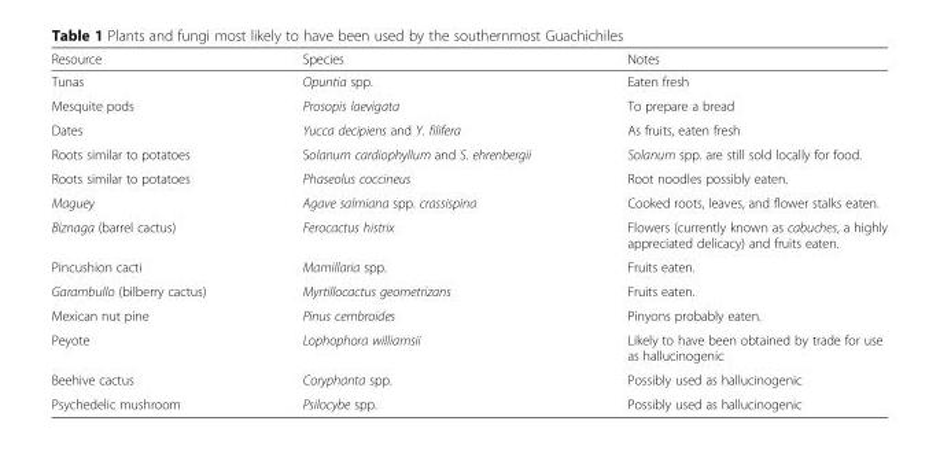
<table><thead><tr><td>Resource</td><td>Species</td><td>Notes</td></tr></thead><tbody><tr><td>Tunas</td><td>Opuntia spp.</td><td>Eaten fresh</td></tr><tr><td>Mesquite pods</td><td>Prosopis laevigata</td><td>To prepare a bread</td></tr><tr><td>Dates</td><td>Yucca decipiens and Y. filifera</td><td>As fruits, eaten fresh</td></tr><tr><td>Roots similar to potatoes</td><td>Solanum cardiophyllum and S. ehrenbergii</td><td>Solanum spp. are still sold locally for food.</td></tr><tr><td>Roots similar to potatoes</td><td>Phaseolus coccineus</td><td>Root noodles possibly eaten.</td></tr><tr><td>Maguey</td><td>Agave salmiana spp. crassispina</td><td>Cooked roots, leaves, and flower stalks eaten.</td></tr><tr><td>Biznaga (barrel cactus)</td><td>Ferocactus histrix</td><td>Flowers (currently known as cabuches, a highly appreciated delicacy) and fruits eaten.</td></tr><tr><td>Pincushion cacti</td><td>Mamillaria spp.</td><td>Fruits eaten.</td></tr><tr><td>Garambullo (bilberry cactus)</td><td>Myrtillocactus geometrizans</td><td>Fruits eaten.</td></tr><tr><td>Mexican nut pine</td><td>Pinus cembroides</td><td>Pinyons probably eaten.</td></tr><tr><td>Peyote</td><td>Lophophora williamsii</td><td>Likely to have been obtained by trade for use as hallucinogenic</td></tr><tr><td>Beehive cactus</td><td>Coryphanta spp.</td><td>Possibly used as hallucinogenic</td></tr><tr><td>Psychedelic mushroom</td><td>Psilocybe spp.</td><td>Possibly used as hallucinogenic</td></tr></tbody></table>